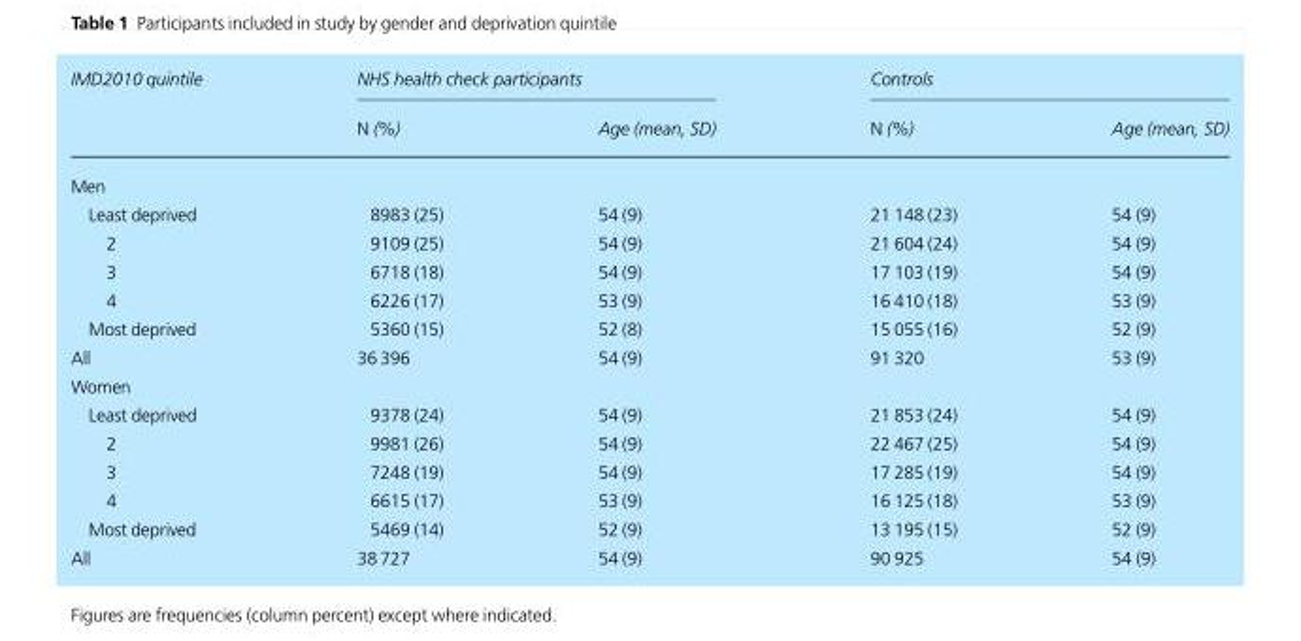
<table><thead><tr><td rowspan="2">IMD2010 quintile</td><td colspan="2">NHS health check participants</td><td colspan="2">Controls</td></tr><tr><td>N (%)</td><td>Age (mean, SD)</td><td>N (%)</td><td>Age (mean, SD)</td></tr></thead><tbody><tr><td colspan="5">Men</td></tr><tr><td>Least deprived</td><td>8983 (25)</td><td>54 (9)</td><td>21 148 (23)</td><td>54 (9)</td></tr><tr><td>2</td><td>9109 (25)</td><td>54 (9)</td><td>21 604 (24)</td><td>54 (9)</td></tr><tr><td>3</td><td>6718 (18)</td><td>54 (9)</td><td>17 103 (19)</td><td>54 (9)</td></tr><tr><td>4</td><td>6226 (17)</td><td>53 (9)</td><td>16 410 (18)</td><td>53 (9)</td></tr><tr><td>Most deprived</td><td>5360 (15)</td><td>52 (8)</td><td>15 055 (16)</td><td>52 (9)</td></tr><tr><td>All</td><td>36 396</td><td>54 (9)</td><td>91 320</td><td>53 (9)</td></tr><tr><td colspan="5">Women</td></tr><tr><td>Least deprived</td><td>9378 (24)</td><td>54 (9)</td><td>21 853 (24)</td><td>54 (9)</td></tr><tr><td>2</td><td>9981 (26)</td><td>54 (9)</td><td>22 467 (25)</td><td>54 (9)</td></tr><tr><td>3</td><td>7248 (19)</td><td>54 (9)</td><td>17 285 (19)</td><td>54 (9)</td></tr><tr><td>4</td><td>6615 (17)</td><td>53 (9)</td><td>16 125 (18)</td><td>53 (9)</td></tr><tr><td>Most deprived</td><td>5469 (14)</td><td>52 (9)</td><td>13 195 (15)</td><td>52 (9)</td></tr><tr><td>All</td><td>38 727</td><td>54 (9)</td><td>90 925</td><td>54 (9)</td></tr></tbody></table>